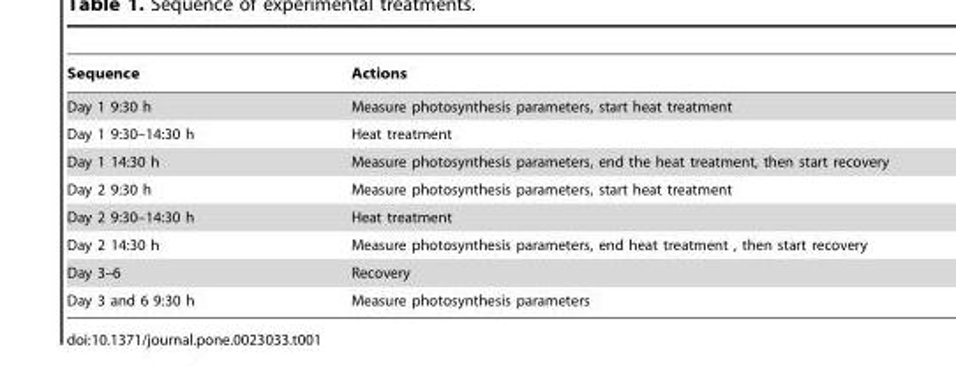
<table><thead><tr><td>Sequence</td><td>Actions</td></tr></thead><tbody><tr><td>Day 1 9:30 h</td><td>Measure photosynthesis parameters, start heat treatment</td></tr><tr><td>Day 1 9:30–14:30 h</td><td>Heat treatment</td></tr><tr><td>Day 1 14:30 h</td><td>Measure photosynthesis parameters, end the heat treatment, then start recovery</td></tr><tr><td>Day 2 9:30 h</td><td>Measure photosynthesis parameters, start heat treatment</td></tr><tr><td>Day 2 9:30–14:30 h</td><td>Heat treatment</td></tr><tr><td>Day 2 14:30 h</td><td>Measure photosynthesis parameters, end heat treatment , then start recovery</td></tr><tr><td>Day 3–6</td><td>Recovery</td></tr><tr><td>Day 3 and 6 9:30 h</td><td>Measure photosynthesis parameters</td></tr></tbody></table>